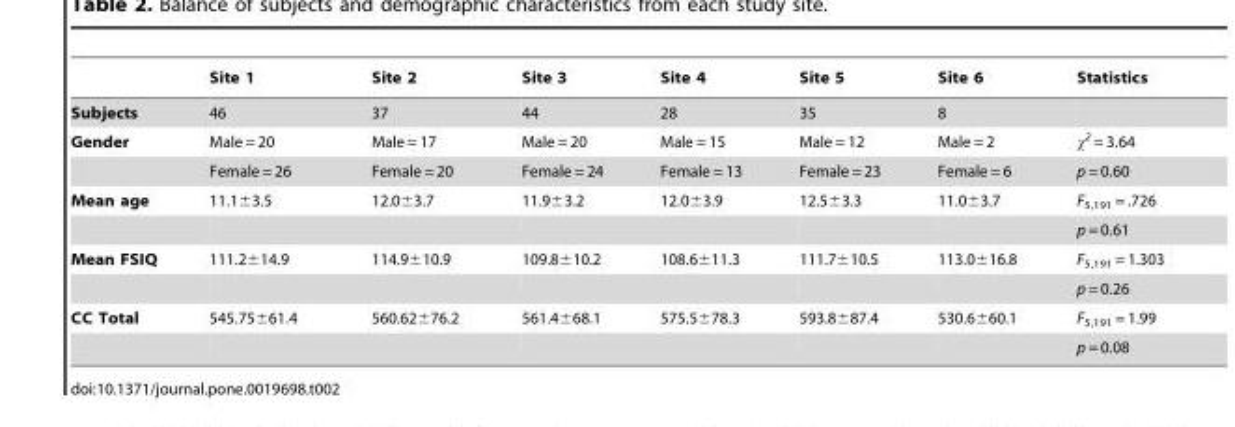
<table><thead><tr><td></td><td>Site 1</td><td>Site 2</td><td>Site 3</td><td>Site 4</td><td>Site 5</td><td>Site 6</td><td>Statistics</td></tr></thead><tbody><tr><td>Subjects</td><td>46</td><td>37</td><td>44</td><td>28</td><td>35</td><td>8</td><td></td></tr><tr><td rowspan="2">Gender</td><td>Male = 20</td><td>Male = 17</td><td>Male = 20</td><td>Male = 15</td><td>Male = 12</td><td>Male = 2</td><td>χ<sup>2</sup> = 3.64</td></tr><tr><td>Female = 26</td><td>Female = 20</td><td>Female = 24</td><td>Female = 13</td><td>Female = 23</td><td>Female = 6</td><td>p = 0.60</td></tr><tr><td rowspan="2">Mean age</td><td>11.1±3.5</td><td>12.0±3.7</td><td>11.9±3.2</td><td>12.0±3.9</td><td>12.5±3.3</td><td>11.0±3.7</td><td>F<sub>5,191</sub> = .726</td></tr><tr><td></td><td></td><td></td><td></td><td></td><td></td><td>p = 0.61</td></tr><tr><td rowspan="2">Mean FSIQ</td><td>111.2±14.9</td><td>114.9±10.9</td><td>109.8±10.2</td><td>108.6±11.3</td><td>111.7±10.5</td><td>113.0±16.8</td><td>F<sub>5,191</sub> = 1.303</td></tr><tr><td></td><td></td><td></td><td></td><td></td><td></td><td>p = 0.26</td></tr><tr><td rowspan="2">CC Total</td><td>545.75±61.4</td><td>560.62±76.2</td><td>561.4±68.1</td><td>575.5±78.3</td><td>593.8±87.4</td><td>530.6±60.1</td><td>F<sub>5,191</sub> = 1.99</td></tr><tr><td></td><td></td><td></td><td></td><td></td><td></td><td>p = 0.08</td></tr></tbody></table>